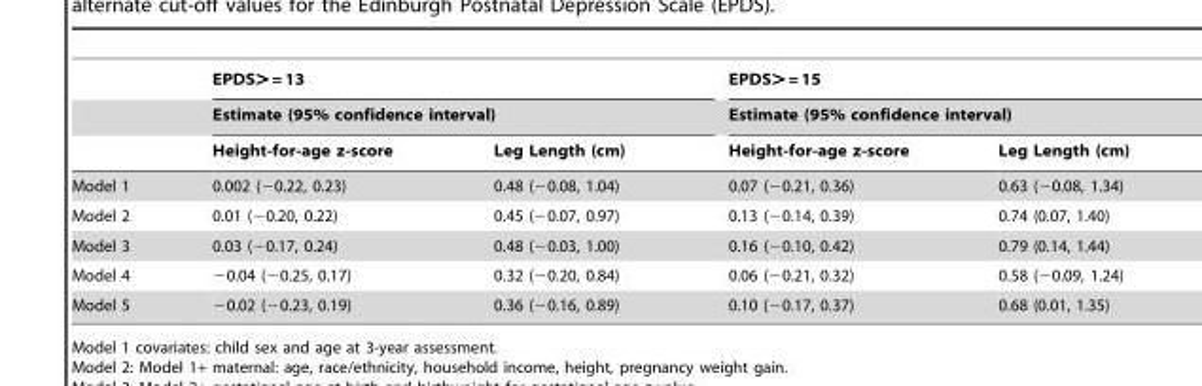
<table><thead><tr><td rowspan="3"></td><td rowspan="2" colspan="2">EPDS&gt; = 13 Estimate (95% confidence interval)</td><td rowspan="2" colspan="2">EPDS&gt; = 15 Estimate (95% confidence interval)</td></tr><tr></tr><tr><td>Height-for-age z-score</td><td>Leg Length (cm)</td><td>Height-for-age z-score</td><td>Leg Length (cm)</td></tr></thead><tbody><tr><td>Model 1</td><td>0.002 (−0.22, 0.23)</td><td>0.48 (−0.08, 1.04)</td><td>0.07 (−0.21, 0.36)</td><td>0.63 (−0.08, 1.34)</td></tr><tr><td>Model 2</td><td>0.01 (−0.20, 0.22)</td><td>0.45 (−0.07, 0.97)</td><td>0.13 (−0.14, 0.39)</td><td>0.74 (0.07, 1.40)</td></tr><tr><td>Model 3</td><td>0.03 (−0.17, 0.24)</td><td>0.48 (−0.03, 1.00)</td><td>0.16 (−0.10, 0.42)</td><td>0.79 (0.14, 1.44)</td></tr><tr><td>Model 4</td><td>−0.04 (−0.25, 0.17)</td><td>0.32 (−0.20, 0.84)</td><td>0.06 (−0.21, 0.32)</td><td>0.58 (−0.09, 1.24)</td></tr><tr><td>Model 5</td><td>−0.02 (−0.23, 0.19)</td><td>0.36 (−0.16, 0.89)</td><td>0.10 (−0.17, 0.37)</td><td>0.68 (0.01, 1.35)</td></tr></tbody></table>